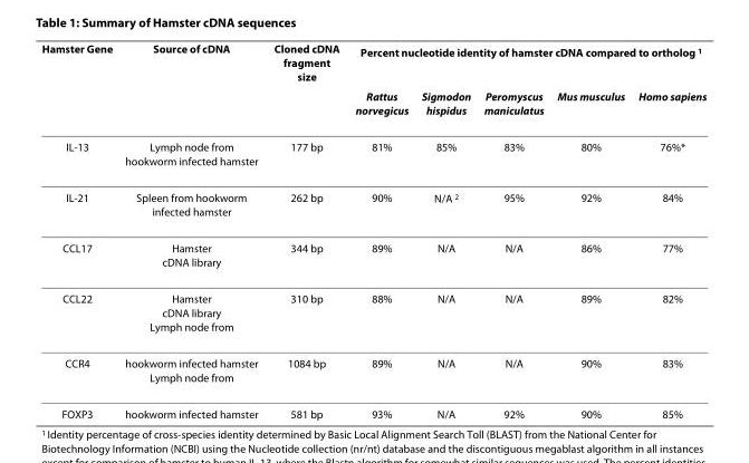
<table><thead><tr><td rowspan="2">Hamster Gene</td><td rowspan="2">Source of cDNA</td><td rowspan="2">Cloned cDNA fragment size</td><td colspan="5">Percent nucleotide identity of hamster cDNA compared to ortholog <sup>1</sup></td></tr><tr><td>Rattus norvegicus</td><td>Sigmodon hispidus</td><td>Peromyscus maniculatus</td><td>Mus musculus</td><td>Homo sapiens</td></tr></thead><tbody><tr><td>IL-13</td><td>Lymph node from hookworm infected hamster</td><td>177 bp</td><td>81%</td><td>85%</td><td>83%</td><td>80%</td><td>76%*</td></tr><tr><td>IL-21</td><td>Spleen from hookworm infected hamster</td><td>262 bp</td><td>90%</td><td>N/A <sup>2</sup></td><td>95%</td><td>92%</td><td>84%</td></tr><tr><td>CCL17</td><td>Hamster cDNA library</td><td>344 bp</td><td>89%</td><td>N/A</td><td>N/A</td><td>86%</td><td>77%</td></tr><tr><td>CCL22</td><td>Hamster cDNA library Lymph node from</td><td>310 bp</td><td>88%</td><td>N/A</td><td>N/A</td><td>89%</td><td>82%</td></tr><tr><td>CCR4</td><td>hookworm infected hamster Lymph node from</td><td>1084 bp</td><td>89%</td><td>N/A</td><td>N/A</td><td>90%</td><td>83%</td></tr><tr><td>FOXP3</td><td>hookworm infected hamster</td><td>581 bp</td><td>93%</td><td>N/A</td><td>92%</td><td>90%</td><td>85%</td></tr></tbody></table>